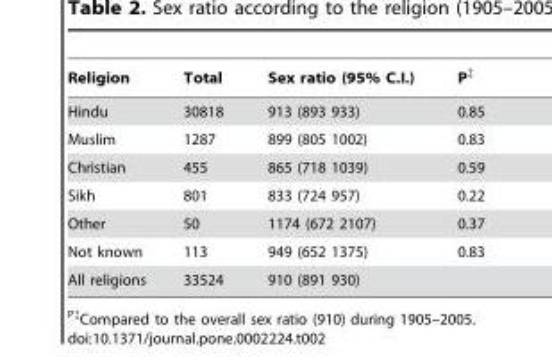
<table><thead><tr><td>Religion</td><td>Total</td><td>Sex ratio (95% C.I.)</td><td>P‡</td></tr></thead><tbody><tr><td>Hindu</td><td>30818</td><td>913 (893 933)</td><td>0.85</td></tr><tr><td>Muslim</td><td>1287</td><td>899 (805 1002)</td><td>0.83</td></tr><tr><td>Christian</td><td>455</td><td>865 (718 1039)</td><td>0.59</td></tr><tr><td>Sikh</td><td>801</td><td>833 (724 957)</td><td>0.22</td></tr><tr><td>Other</td><td>50</td><td>1174 (672 2107)</td><td>0.37</td></tr><tr><td>Not known</td><td>113</td><td>949 (652 1375)</td><td>0.83</td></tr><tr><td>All religions</td><td>33524</td><td>910 (891 930)</td><td></td></tr></tbody></table>